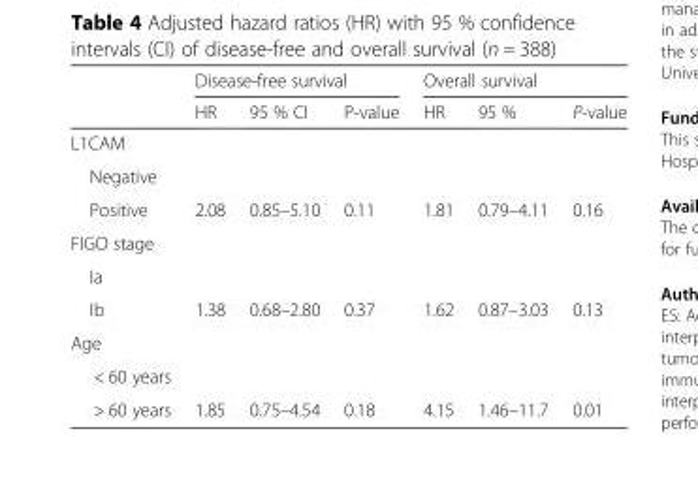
<table><thead><tr><td rowspan="2"></td><td colspan="3">Disease-free survival</td><td colspan="3">Overall survival</td></tr><tr><td>HR</td><td>95 % CI</td><td>P-value</td><td>HR</td><td>95 %</td><td>P-value</td></tr></thead><tbody><tr><td colspan="7">L1CAM</td></tr><tr><td colspan="7">Negative</td></tr><tr><td>Positive</td><td>2.08</td><td>0.85–5.10</td><td>0.11</td><td>1.81</td><td>0.79–4.11</td><td>0.16</td></tr><tr><td colspan="7">FIGO stage</td></tr><tr><td colspan="7">Ia</td></tr><tr><td>Ib</td><td>1.38</td><td>0.68–2.80</td><td>0.37</td><td>1.62</td><td>0.87–3.03</td><td>0.13</td></tr><tr><td colspan="7">Age</td></tr><tr><td colspan="7">&lt; 60 years</td></tr><tr><td>&gt; 60 years</td><td>1.85</td><td>0.75–4.54</td><td>0.18</td><td>4.15</td><td>1.46–11.7</td><td>0.01</td></tr></tbody></table>